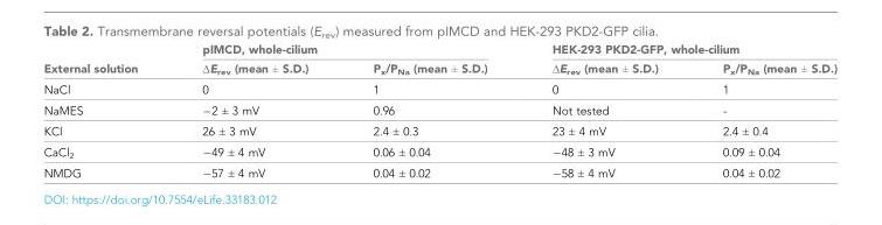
<table><thead><tr><td rowspan="2">External solution</td><td colspan="2">pIMCD, whole-cilium</td><td colspan="2">HEK-293 PKD2-GFP, whole-cilium</td></tr><tr><td>ΔE<sub>rev</sub> (mean ± S.D.)</td><td>P<sub>x</sub>/P<sub>Na</sub> (mean ± S.D.)</td><td>ΔE<sub>rev</sub> (mean ± S.D.)</td><td>P<sub>x</sub>/P<sub>Na</sub> (mean ± S.D.)</td></tr></thead><tbody><tr><td>NaCl</td><td>0</td><td>1</td><td>0</td><td>1</td></tr><tr><td>NaMES</td><td>−2 ± 3 mV</td><td>0.96</td><td>Not tested</td><td>-</td></tr><tr><td>KCl</td><td>26 ± 3 mV</td><td>2.4 ± 0.3</td><td>23 ± 4 mV</td><td>2.4 ± 0.4</td></tr><tr><td>CaCl<sub>2</sub></td><td>−49 ± 4 mV</td><td>0.06 ± 0.04</td><td>−48 ± 3 mV</td><td>0.09 ± 0.04</td></tr><tr><td>NMDG</td><td>−57 ± 4 mV</td><td>0.04 ± 0.02</td><td>−58 ± 4 mV</td><td>0.04 ± 0.02</td></tr></tbody></table>